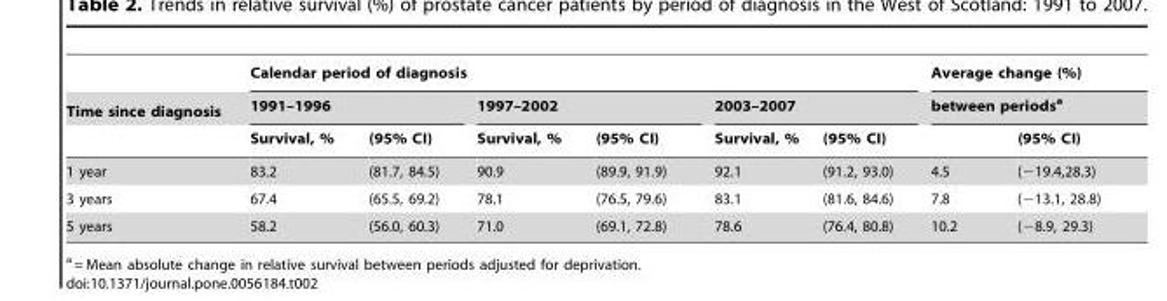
<table><thead><tr><td rowspan="3">Time since diagnosis</td><td colspan="6">Calendar period of diagnosis</td><td rowspan="2" colspan="2">Average change (%) between periods<sup>a</sup></td></tr><tr><td colspan="2">1991–1996</td><td colspan="2">1997–2002</td><td colspan="2">2003–2007</td></tr><tr><td>Survival, %</td><td>(95% CI)</td><td>Survival, %</td><td>(95% CI)</td><td>Survival, %</td><td>(95% CI)</td><td></td><td>(95% CI)</td></tr></thead><tbody><tr><td>1 year</td><td>83.2</td><td>(81.7, 84.5)</td><td>90.9</td><td>(89.9, 91.9)</td><td>92.1</td><td>(91.2, 93.0)</td><td>4.5</td><td>(−19.4,28.3)</td></tr><tr><td>3 years</td><td>67.4</td><td>(65.5, 69.2)</td><td>78.1</td><td>(76.5, 79.6)</td><td>83.1</td><td>(81.6, 84.6)</td><td>7.8</td><td>(−13.1, 28.8)</td></tr><tr><td>5 years</td><td>58.2</td><td>(56.0, 60.3)</td><td>71.0</td><td>(69.1, 72.8)</td><td>78.6</td><td>(76.4, 80.8)</td><td>10.2</td><td>(−8.9, 29.3)</td></tr></tbody></table>